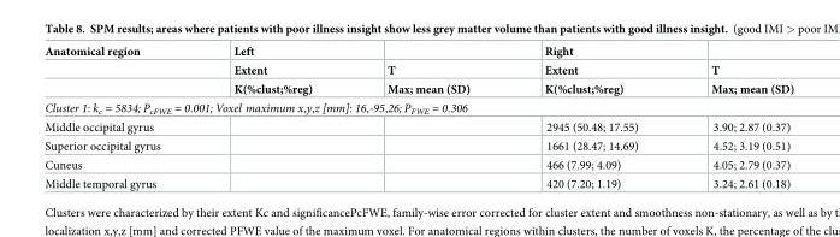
<table><thead><tr><td rowspan="3">Anatomical region</td><td rowspan="3">Left Extent K(%clust;%reg)</td><td rowspan="3">T Max; mean (SD)</td><td rowspan="3">Right Extent K(%clust;%reg)</td><td rowspan="3">T Max; mean (SD)</td></tr><tr></tr><tr></tr></thead><tbody><tr><td colspan="5">Cluster 1: k<sub>c</sub> = 5834; P<sub>cFWE</sub> = 0.001; Voxel maximum x,y,z [mm]: 16,-95,26; P<sub>FWE</sub> = 0.306</td></tr><tr><td>Middle occipital gyrus</td><td></td><td></td><td>2945 (50.48; 17.55)</td><td>3.90; 2.87 (0.37)</td></tr><tr><td>Superior occipital gyrus</td><td></td><td></td><td>1661 (28.47; 14.69)</td><td>4.52; 3.19 (0.51)</td></tr><tr><td>Cuneus</td><td></td><td></td><td>466 (7.99; 4.09)</td><td>4.05; 2.79 (0.37)</td></tr><tr><td>Middle temporal gyrus</td><td></td><td></td><td>420 (7.20; 1.19)</td><td>3.24; 2.61 (0.18)</td></tr></tbody></table>